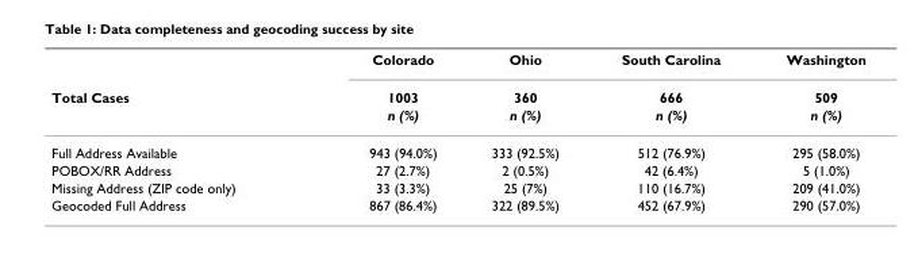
<table><thead><tr><td rowspan="3">Total Cases</td><td rowspan="3">Colorado 1003 n (%)</td><td rowspan="3">Ohio 360 n (%)</td><td rowspan="3">South Carolina 666 n (%)</td><td rowspan="3">Washington 509 n (%)</td></tr><tr></tr><tr></tr></thead><tbody><tr><td>Full Address Available</td><td>943 (94.0%)</td><td>333 (92.5%)</td><td>512 (76.9%)</td><td>295 (58.0%)</td></tr><tr><td>POBOX/RR Address</td><td>27 (2.7%)</td><td>2 (0.5%)</td><td>42 (6.4%)</td><td>5 (1.0%)</td></tr><tr><td>Missing Address (ZIP code only)</td><td>33 (3.3%)</td><td>25 (7%)</td><td>110 (16.7%)</td><td>209 (41.0%)</td></tr><tr><td>Geocoded Full Address</td><td>867 (86.4%)</td><td>322 (89.5%)</td><td>452 (67.9%)</td><td>290 (57.0%)</td></tr></tbody></table>